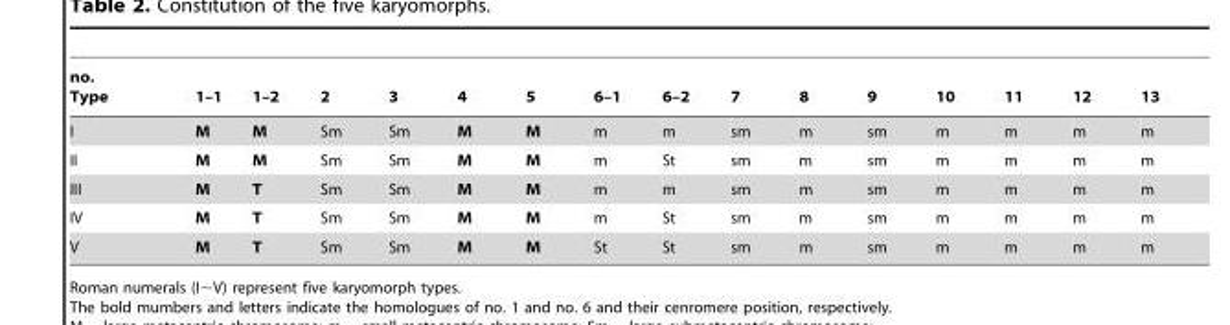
<table><thead><tr><td>no. Type</td><td>1–1</td><td>1–2</td><td>2</td><td>3</td><td>4</td><td>5</td><td>6–1</td><td>6–2</td><td>7</td><td>8</td><td>9</td><td>10</td><td>11</td><td>12</td><td>13</td></tr></thead><tbody><tr><td>I</td><td>M</td><td>M</td><td>Sm</td><td>Sm</td><td>M</td><td>M</td><td>m</td><td>m</td><td>sm</td><td>m</td><td>sm</td><td>m</td><td>m</td><td>m</td><td>m</td></tr><tr><td>II</td><td>M</td><td>M</td><td>Sm</td><td>Sm</td><td>M</td><td>M</td><td>m</td><td>St</td><td>sm</td><td>m</td><td>sm</td><td>m</td><td>m</td><td>m</td><td>m</td></tr><tr><td>III</td><td>M</td><td>T</td><td>Sm</td><td>Sm</td><td>M</td><td>M</td><td>m</td><td>m</td><td>sm</td><td>m</td><td>sm</td><td>m</td><td>m</td><td>m</td><td>m</td></tr><tr><td>IV</td><td>M</td><td>T</td><td>Sm</td><td>Sm</td><td>M</td><td>M</td><td>m</td><td>St</td><td>sm</td><td>m</td><td>sm</td><td>m</td><td>m</td><td>m</td><td>m</td></tr><tr><td>V</td><td>M</td><td>T</td><td>Sm</td><td>Sm</td><td>M</td><td>M</td><td>St</td><td>St</td><td>sm</td><td>m</td><td>sm</td><td>m</td><td>m</td><td>m</td><td>m</td></tr></tbody></table>